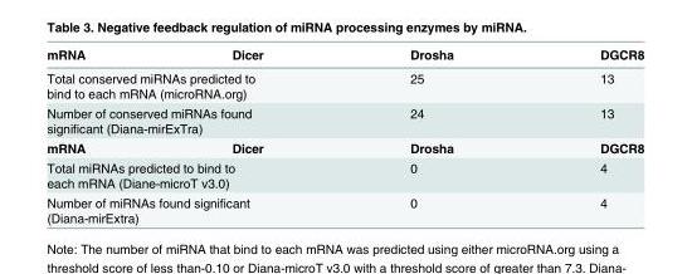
<table><thead><tr><td>mRNA</td><td>Dicer</td><td>Drosha</td><td>DGCR8</td></tr></thead><tbody><tr><td colspan="2">Total conserved miRNAs predicted to bind to each mRNA (microRNA.org)</td><td>25</td><td>13</td></tr><tr><td colspan="2">Number of conserved miRNAs found significant (Diana-mirExTra)</td><td>24</td><td>13</td></tr><tr><td>mRNA</td><td>Dicer</td><td>Drosha</td><td>DGCR8</td></tr><tr><td colspan="2">Total miRNAs predicted to bind to each mRNA (Diane-microT v3.0)</td><td>0</td><td>4</td></tr><tr><td colspan="2">Number of miRNAs found significant (Diana-mirExtra)</td><td>0</td><td>4</td></tr></tbody></table>